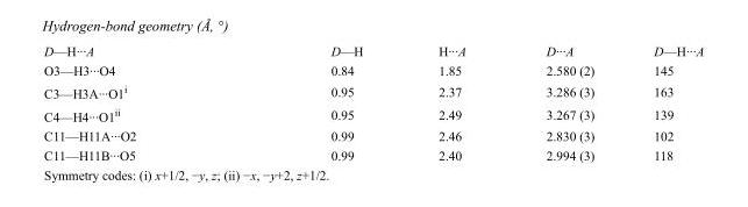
<table><tbody><tr><td>D—H···A</td><td>D—H</td><td>H···A</td><td>D···A</td><td>D—H···A</td></tr><tr><td>O3—H3···O4</td><td>0.84</td><td>1.85</td><td>2.580 (2)</td><td>145</td></tr><tr><td>C3—H3A···O1<sup>i</sup></td><td>0.95</td><td>2.37</td><td>3.286 (3)</td><td>163</td></tr><tr><td>C4—H4···O1<sup>ii</sup></td><td>0.95</td><td>2.49</td><td>3.267 (3)</td><td>139</td></tr><tr><td>C11—H11A···O2</td><td>0.99</td><td>2.46</td><td>2.830 (3)</td><td>102</td></tr><tr><td>C11—H11B···O5</td><td>0.99</td><td>2.40</td><td>2.994 (3)</td><td>118</td></tr></tbody></table>